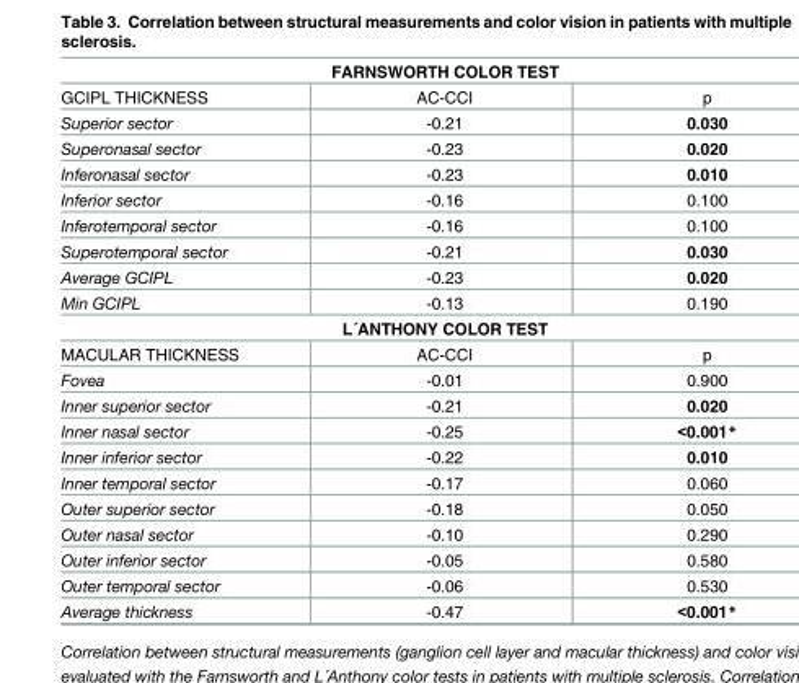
<table><tbody><tr><td colspan="3">FARNSWORTH COLOR TEST</td></tr><tr><td>GCIPL THICKNESS</td><td>AC-CCI</td><td>p</td></tr><tr><td>Superior sector</td><td>-0.21</td><td>0.030</td></tr><tr><td>Superonasal sector</td><td>-0.23</td><td>0.020</td></tr><tr><td>Inferonasal sector</td><td>-0.23</td><td>0.010</td></tr><tr><td>Inferior sector</td><td>-0.16</td><td>0.100</td></tr><tr><td>Inferotemporal sector</td><td>-0.16</td><td>0.100</td></tr><tr><td>Superotemporal sector</td><td>-0.21</td><td>0.030</td></tr><tr><td>Average GCIPL</td><td>-0.23</td><td>0.020</td></tr><tr><td>Min GCIPL</td><td>-0.13</td><td>0.190</td></tr><tr><td colspan="3">L´ANTHONY COLOR TEST</td></tr><tr><td>MACULAR THICKNESS</td><td>AC-CCI</td><td>p</td></tr><tr><td>Fovea</td><td>-0.01</td><td>0.900</td></tr><tr><td>Inner superior sector</td><td>-0.21</td><td>0.020</td></tr><tr><td>Inner nasal sector</td><td>-0.25</td><td>&lt;0.001*</td></tr><tr><td>Inner inferior sector</td><td>-0.22</td><td>0.010</td></tr><tr><td>Inner temporal sector</td><td>-0.17</td><td>0.060</td></tr><tr><td>Outer superior sector</td><td>-0.18</td><td>0.050</td></tr><tr><td>Outer nasal sector</td><td>-0.10</td><td>0.290</td></tr><tr><td>Outer inferior sector</td><td>-0.05</td><td>0.580</td></tr><tr><td>Outer temporal sector</td><td>-0.06</td><td>0.530</td></tr><tr><td>Average thickness</td><td>-0.47</td><td>&lt;0.001*</td></tr></tbody></table>